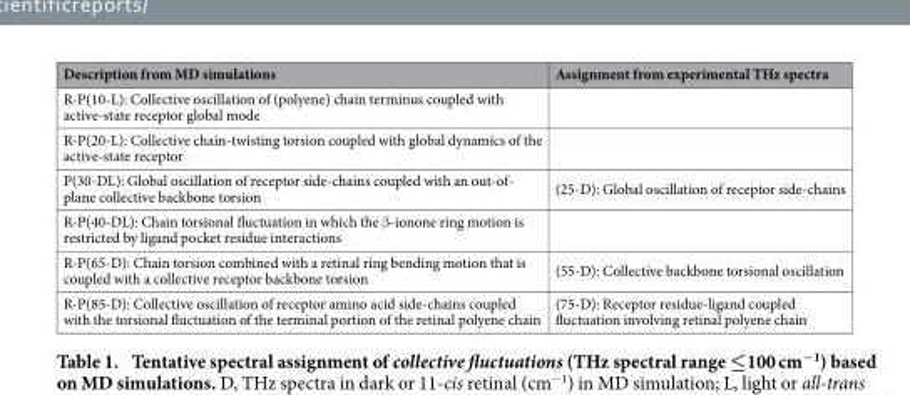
<table><thead><tr><td>Description from MD simulations</td><td>Assignment from experimental THz spectra</td></tr></thead><tbody><tr><td colspan="2">R-P(10-L): Collective oscillation of (polyene) chain terminus coupled with active-state receptor global mode</td></tr><tr><td colspan="2">R-P(20-L): Collective chain-twisting torsion coupled with global dynamics of the active-state receptor</td></tr><tr><td>P(30-DL): Global oscillation of receptor side-chains coupled with an out-of- plane collective backbone torsion</td><td>(25-D): Global oscillation of receptor side-chains</td></tr><tr><td colspan="2">R-P(40-DL): Chain torsional fluctuation in which the β -ionone ring motion is restricted by ligand pocket residue interactions</td></tr><tr><td>R-P(65-D): Chain torsion combined with a retinal ring bending motion that is coupled with a collective receptor backbone torsion</td><td>(55-D): Collective backbone torsional oscillation</td></tr><tr><td>R-P(85-D): Collective oscillation of receptor amino acid side-chains coupled with the torsional fluctuation of the terminal portion of the retinal polyene chain</td><td>(75-D): Receptor residue-ligand coupled fluctuation involving retinal polyene chain</td></tr></tbody></table>